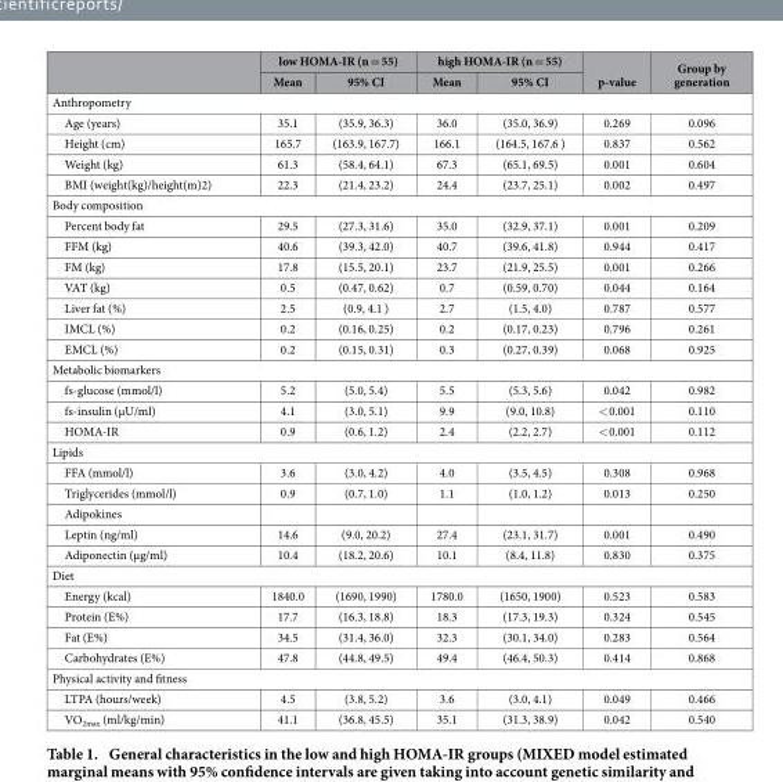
<table><thead><tr><td rowspan="2"></td><td colspan="2">low HOMA-IR (n = 55)</td><td colspan="2">high HOMA-IR (n = 55)</td><td rowspan="2">p-value</td><td rowspan="2">Group by generation</td></tr><tr><td>Mean</td><td>95% CI</td><td>Mean</td><td>95% CI</td></tr></thead><tbody><tr><td colspan="7">Anthropometry</td></tr><tr><td>Age (years)</td><td>35.1</td><td>(35.9, 36.3)</td><td>36.0</td><td>(35.0, 36.9)</td><td>0.269</td><td>0.096</td></tr><tr><td>Height (cm)</td><td>165.7</td><td>(163.9, 167.7)</td><td>166.1</td><td>(164.5, 167.6 )</td><td>0.837</td><td>0.562</td></tr><tr><td>Weight (kg)</td><td>61.3</td><td>(58.4, 64.1)</td><td>67.3</td><td>(65.1, 69.5)</td><td>0.001</td><td>0.604</td></tr><tr><td>BMI (weight(kg)/height(m)2)</td><td>22.3</td><td>(21.4, 23.2)</td><td>24.4</td><td>(23.7, 25.1)</td><td>0.002</td><td>0.497</td></tr><tr><td colspan="7">Body composition</td></tr><tr><td>Percent body fat</td><td>29.5</td><td>(27.3, 31.6)</td><td>35.0</td><td>(32.9, 37.1)</td><td>0.001</td><td>0.209</td></tr><tr><td>FFM (kg)</td><td>40.6</td><td>(39.3, 42.0)</td><td>40.7</td><td>(39.6, 41.8)</td><td>0.944</td><td>0.417</td></tr><tr><td>FM (kg)</td><td>17.8</td><td>(15.5, 20.1)</td><td>23.7</td><td>(21.9, 25.5)</td><td>0.001</td><td>0.266</td></tr><tr><td>VAT (kg)</td><td>0.5</td><td>(0.47, 0.62)</td><td>0.7</td><td>(0.59, 0.70)</td><td>0.044</td><td>0.164</td></tr><tr><td>Liver fat (%)</td><td>2.5</td><td>(0.9, 4.1 )</td><td>2.7</td><td>(1.5, 4.0)</td><td>0.787</td><td>0.577</td></tr><tr><td>IMCL (%)</td><td>0.2</td><td>(0.16, 0.25)</td><td>0.2</td><td>(0.17, 0.23)</td><td>0.796</td><td>0.261</td></tr><tr><td>EMCL (%)</td><td>0.2</td><td>(0.15, 0.31)</td><td>0.3</td><td>(0.27, 0.39)</td><td>0.068</td><td>0.925</td></tr><tr><td colspan="7">Metabolic biomarkers</td></tr><tr><td>fs-glucose (mmol/l)</td><td>5.2</td><td>(5.0, 5.4)</td><td>5.5</td><td>(5.3, 5.6)</td><td>0.042</td><td>0.982</td></tr><tr><td>fs-insulin (μU/ml)</td><td>4.1</td><td>(3.0, 5.1)</td><td>9.9</td><td>(9.0, 10.8)</td><td>&lt; 0.001</td><td>0.110</td></tr><tr><td>HOMA-IR</td><td>0.9</td><td>(0.6, 1.2)</td><td>2.4</td><td>(2.2, 2.7)</td><td>&lt; 0.001</td><td>0.112</td></tr><tr><td colspan="7">Lipids</td></tr><tr><td>FFA (mmol/l)</td><td>3.6</td><td>(3.0, 4.2)</td><td>4.0</td><td>(3.5, 4.5)</td><td>0.308</td><td>0.968</td></tr><tr><td>Triglycerides (mmol/l)</td><td>0.9</td><td>(0.7, 1.0)</td><td>1.1</td><td>(1.0, 1.2)</td><td>0.013</td><td>0.250</td></tr><tr><td colspan="7">Adipokines</td></tr><tr><td>Leptin (ng/ml)</td><td>14.6</td><td>(9.0, 20.2)</td><td>27.4</td><td>(23.1, 31.7)</td><td>0.001</td><td>0.490</td></tr><tr><td>Adiponectin (μg/ml)</td><td>10.4</td><td>(18.2, 20.6)</td><td>10.1</td><td>(8.4, 11.8)</td><td>0.830</td><td>0.375</td></tr><tr><td colspan="7">Diet</td></tr><tr><td>Energy (kcal)</td><td>1840.0</td><td>(1690, 1990)</td><td>1780.0</td><td>(1650, 1900)</td><td>0.523</td><td>0.583</td></tr><tr><td>Protein (E%)</td><td>17.7</td><td>(16.3, 18.8)</td><td>18.3</td><td>(17.3, 19.3)</td><td>0.324</td><td>0.545</td></tr><tr><td>Fat (E%)</td><td>34.5</td><td>(31.4, 36.0)</td><td>32.3</td><td>(30.1, 34.0)</td><td>0.283</td><td>0.564</td></tr><tr><td>Carbohydrates (E%)</td><td>47.8</td><td>(44.8, 49.5)</td><td>49.4</td><td>(46.4, 50.3)</td><td>0.414</td><td>0.868</td></tr><tr><td colspan="7">Physical activity and fitness</td></tr><tr><td>LTPA (hours/week)</td><td>4.5</td><td>(3.8, 5.2)</td><td>3.6</td><td>(3.0, 4.1)</td><td>0.049</td><td>0.466</td></tr><tr><td>VO<sub>2max</sub> (ml/kg/min)</td><td>41.1</td><td>(36.8, 45.5)</td><td>35.1</td><td>(31.3, 38.9)</td><td>0.042</td><td>0.540</td></tr></tbody></table>